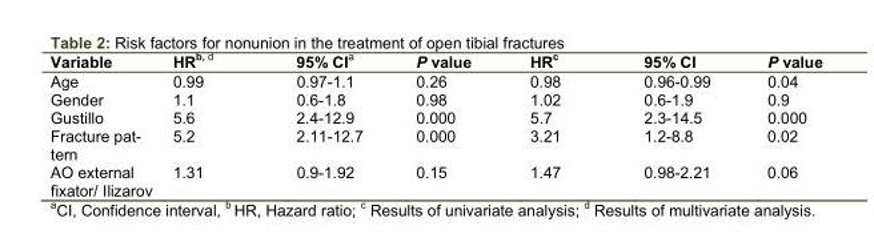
<table><thead><tr><td>Variable</td><td>HRb, d</td><td>95% CI<sup>a</sup></td><td>P value</td><td>HRc</td><td>95% CI</td><td>P value</td></tr></thead><tbody><tr><td>Age</td><td>0.99</td><td>0.97-1.1</td><td>0.26</td><td>0.98</td><td>0.96-0.99</td><td>0.04</td></tr><tr><td>Gender</td><td>1.1</td><td>0.6-1.8</td><td>0.98</td><td>1.02</td><td>0.6-1.9</td><td>0.9</td></tr><tr><td>Gustillo</td><td>5.6</td><td>2.4-12.9</td><td>0.000</td><td>5.7</td><td>2.3-14.5</td><td>0.000</td></tr><tr><td>Fracture pat- tern</td><td>5.2</td><td>2.11-12.7</td><td>0.000</td><td>3.21</td><td>1.2-8.8</td><td>0.02</td></tr><tr><td>AO external fixator/ Ilizarov</td><td>1.31</td><td>0.9-1.92</td><td>0.15</td><td>1.47</td><td>0.98-2.21</td><td>0.06</td></tr></tbody></table>